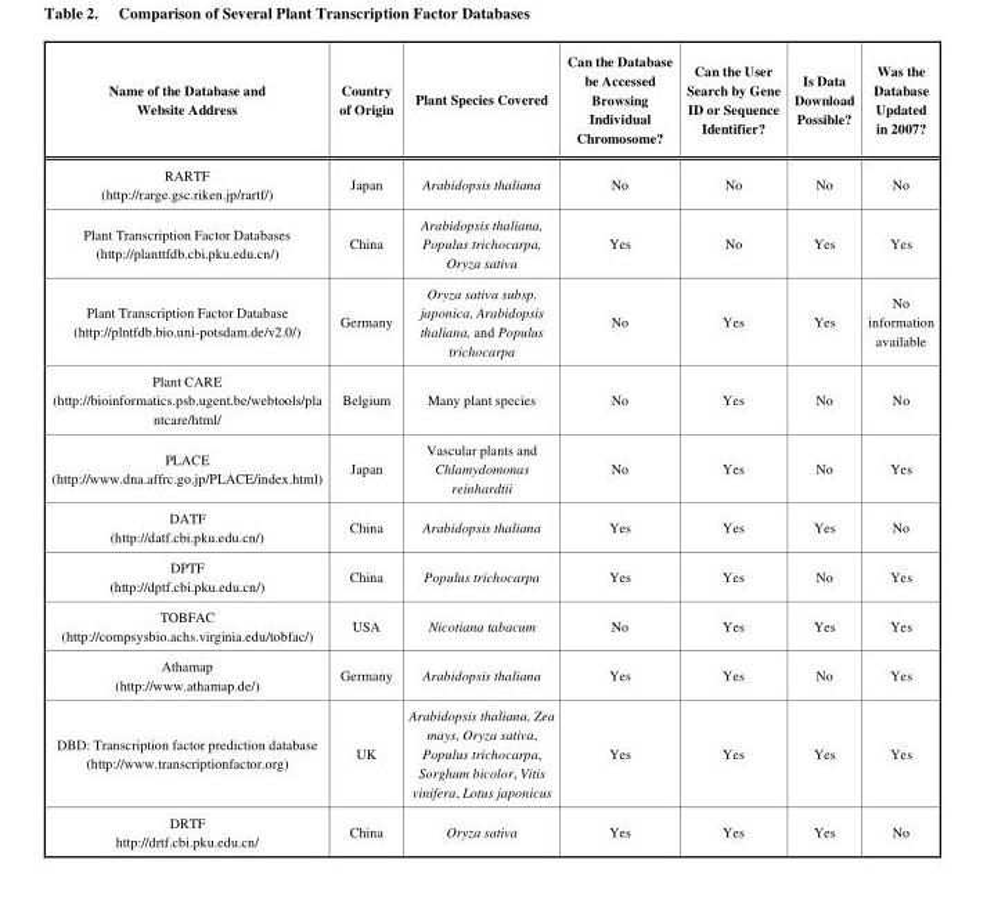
<table><thead><tr><td>Name of the Database and Website Address</td><td>Country of Origin</td><td>Plant Species Covered</td><td>Can the Database be Accessed Browsing Individual Chromosome?</td><td>Can the User Search by Gene ID or Sequence Identifier?</td><td>Is Data Download Possible?</td><td>Was the Database Updated in 2007?</td></tr></thead><tbody><tr><td>RARTF (http://rarge.gsc.riken.jp/rartf/)</td><td>Japan</td><td>Arabidopsis thaliana</td><td>No</td><td>No</td><td>No</td><td>No</td></tr><tr><td>Plant Transcription Factor Databases (http://planttfdb.cbi.pku.edu.cn/)</td><td>China</td><td>Arabidopsis thaliana, Populus trichocarpa, Oryza sativa</td><td>Yes</td><td>No</td><td>Yes</td><td>Yes</td></tr><tr><td>Plant Transcription Factor Database (http://plntfdb.bio.uni-potsdam.de/v2.0/)</td><td>Germany</td><td>Oryza sativa subsp. japonica, Arabidopsis thaliana, and Populus trichocarpa</td><td>No</td><td>Yes</td><td>Yes</td><td>No information available</td></tr><tr><td>Plant CARE (http://bioinformatics.psb.ugent.be/webtools/pla ntcare/html/</td><td>Belgium</td><td>Many plant species</td><td>No</td><td>Yes</td><td>No</td><td>No</td></tr><tr><td>PLACE (http://www.dna.affrc.go.jp/PLACE/index.html)</td><td>Japan</td><td>Vascular plants and Chlamydomonas reinhardtii</td><td>No</td><td>Yes</td><td>No</td><td>Yes</td></tr><tr><td>DATF (http://datf.cbi.pku.edu.cn/)</td><td>China</td><td>Arabidopsis thaliana</td><td>Yes</td><td>Yes</td><td>Yes</td><td>No</td></tr><tr><td>DPTF (http://dptf.cbi.pku.edu.cn/)</td><td>China</td><td>Populus trichocarpa</td><td>Yes</td><td>Yes</td><td>No</td><td>Yes</td></tr><tr><td>TOBFAC (http://compsysbio.achs.virginia.edu/tobfac/)</td><td>USA</td><td>Nicotiana tabacum</td><td>No</td><td>Yes</td><td>Yes</td><td>Yes</td></tr><tr><td>Athamap (http://www.athamap.de/)</td><td>Germany</td><td>Arabidopsis thaliana</td><td>Yes</td><td>Yes</td><td>No</td><td>Yes</td></tr><tr><td>DBD: Transcription factor prediction database (http://www.transcriptionfactor.org)</td><td>UK</td><td>Arabidopsis thaliana, Zea mays, Oryza sativa, Populus trichocarpa, Sorghum bicolor, Vitis vinifera, Lotus japonicus</td><td>Yes</td><td>Yes</td><td>Yes</td><td>Yes</td></tr><tr><td>DRTF http://drtf.cbi.pku.edu.cn/</td><td>China</td><td>Oryza sativa</td><td>Yes</td><td>Yes</td><td>Yes</td><td>No</td></tr></tbody></table>